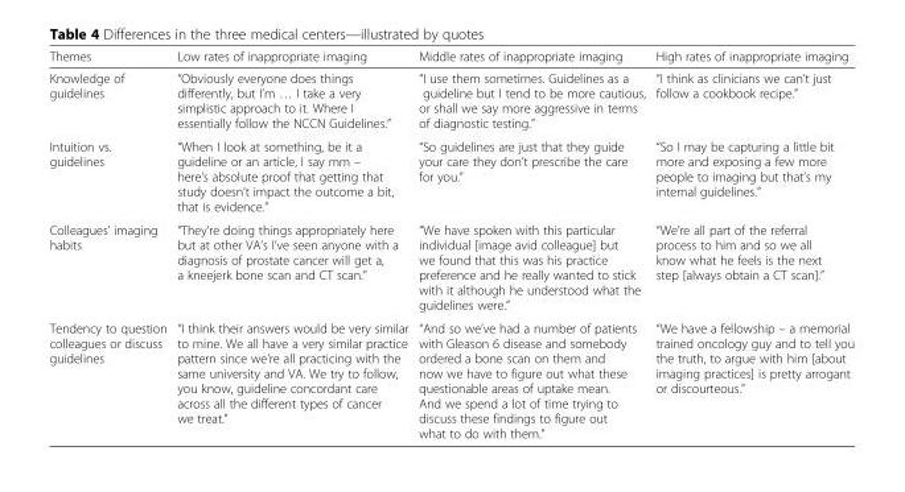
<table><thead><tr><td>Themes</td><td>Low rates of inappropriate imaging</td><td>Middle rates of inappropriate imaging</td><td>High rates of inappropriate imaging</td></tr></thead><tbody><tr><td>Knowledge of guidelines</td><td>“Obviously everyone does things differently, but I’m … I take a very simplistic approach to it. Where I essentially follow the NCCN Guidelines.”</td><td>“I use them sometimes. Guidelines as a guideline but I tend to be more cautious, or shall we say more aggressive in terms of diagnostic testing.”</td><td>“I think as clinicians we can’t just follow a cookbook recipe.”</td></tr><tr><td>Intuition vs. guidelines</td><td>“When I look at something, be it a guideline or an article, I say mm – here’s absolute proof that getting that study doesn’t impact the outcome a bit, that is evidence.”</td><td>“So guidelines are just that they guide your care they don’t prescribe the care for you.”</td><td>“So I may be capturing a little bit more and exposing a few more people to imaging but that’s my internal guidelines.”</td></tr><tr><td>Colleagues’ imaging habits</td><td>“They’re doing things appropriately here but at other VA’s I’ve seen anyone with a diagnosis of prostate cancer will get a, a kneejerk bone scan and CT scan.”</td><td>“We have spoken with this particular individual [image avid colleague] but we found that this was his practice preference and he really wanted to stick with it although he understood what the guidelines were.”</td><td>“We’re all part of the referral process to him and so we all know what he feels is the next step [always obtain a CT scan].”</td></tr><tr><td>Tendency to question colleagues or discuss guidelines</td><td>“I think their answers would be very similar to mine. We all have a very similar practice pattern since we’re all practicing with the same university and VA. We try to follow, you know, guideline concordant care across all the different types of cancer we treat.”</td><td>“And so we’ve had a number of patients with Gleason 6 disease and somebody ordered a bone scan on them and now we have to figure out what these questionable areas of uptake mean. And we spend a lot of time trying to discuss these findings to figure out what to do with them.”</td><td>“We have a fellowship – a memorial trained oncology guy and to tell you the truth, to argue with him [about imaging practices] is pretty arrogant or discourteous.”</td></tr></tbody></table>